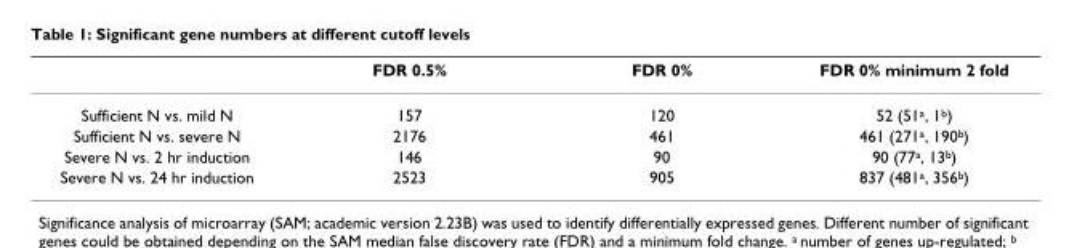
<table><thead><tr><td></td><td>FDR 0.5%</td><td>FDR 0%</td><td>FDR 0% minimum 2 fold</td></tr></thead><tbody><tr><td>Sufficient N vs. mild N</td><td>157</td><td>120</td><td>52 (51<sup>a</sup>, 1<sup>b</sup>)</td></tr><tr><td>Sufficient N vs. severe N</td><td>2176</td><td>461</td><td>461 (271<sup>a</sup>, 190<sup>b</sup>)</td></tr><tr><td>Severe N vs. 2 hr induction</td><td>146</td><td>90</td><td>90 (77<sup>a</sup>, 13<sup>b</sup>)</td></tr><tr><td>Severe N vs. 24 hr induction</td><td>2523</td><td>905</td><td>837 (481<sup>a</sup>, 356<sup>b</sup>)</td></tr></tbody></table>